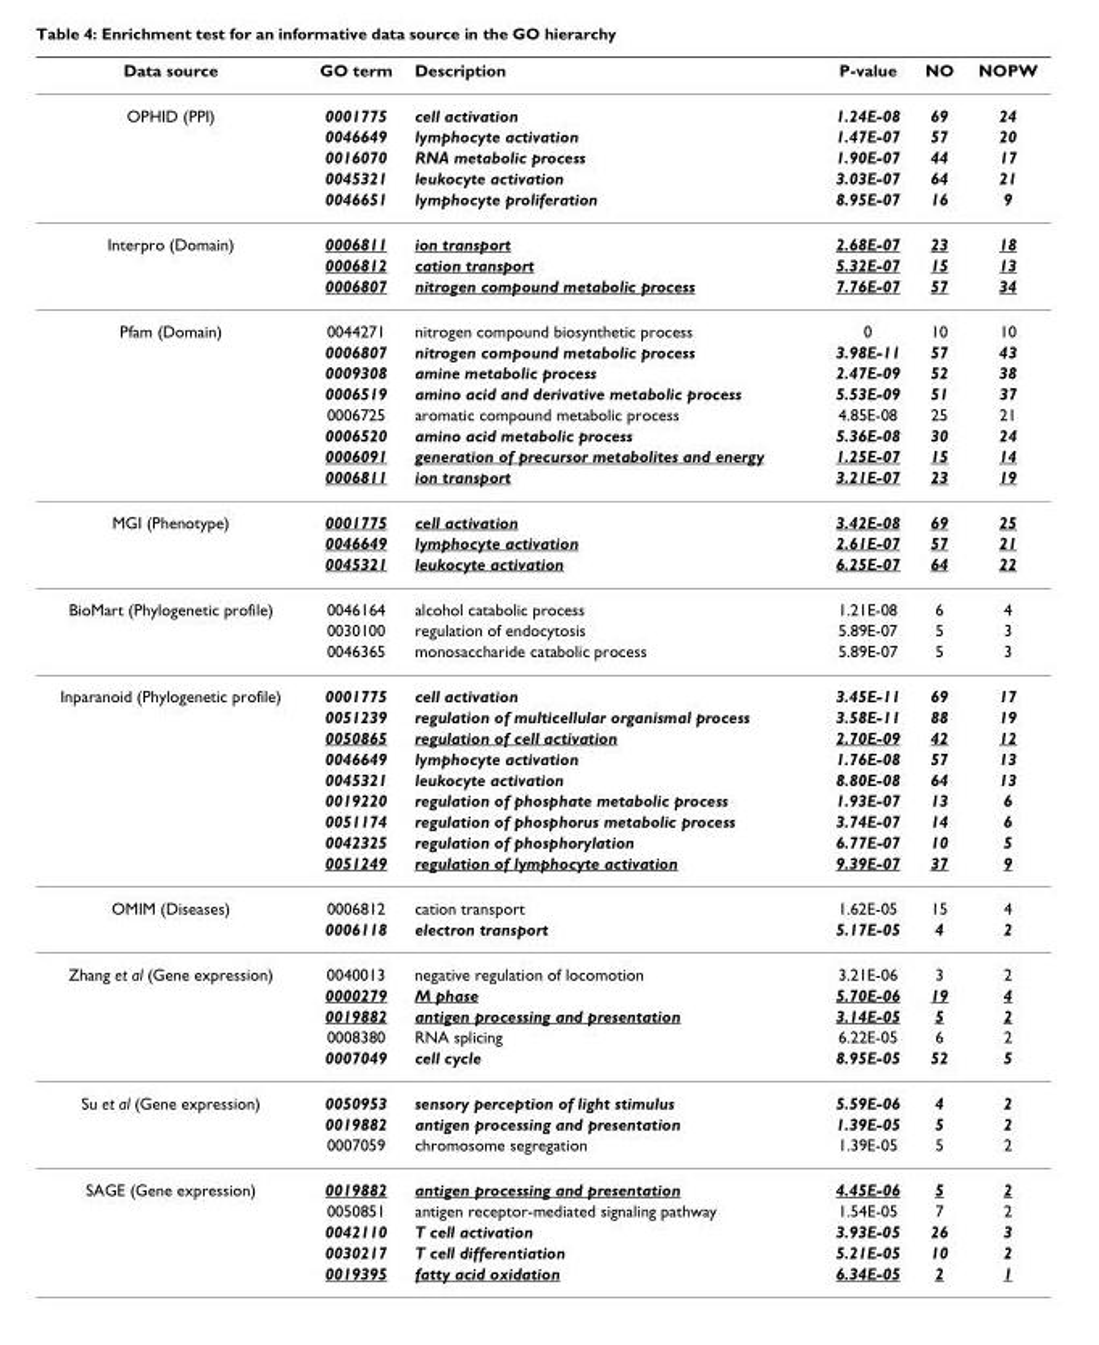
<table><thead><tr><td>Data source</td><td>GO term</td><td>Description</td><td>P-value</td><td>NO</td><td>NOPW</td></tr></thead><tbody><tr><td rowspan="5">OPHID (PPI)</td><td>0001775</td><td>cell activation</td><td>1.24E-08</td><td>69</td><td>24</td></tr><tr><td>0046649</td><td>lymphocyte activation</td><td>1.47E-07</td><td>57</td><td>20</td></tr><tr><td>0016070</td><td>RNA metabolic process</td><td>1.90E-07</td><td>44</td><td>17</td></tr><tr><td>0045321</td><td>leukocyte activation</td><td>3.03E-07</td><td>64</td><td>21</td></tr><tr><td>0046651</td><td>lymphocyte proliferation</td><td>8.95E-07</td><td>16</td><td>9</td></tr><tr><td rowspan="3">Interpro (Domain)</td><td>0006811</td><td>ion transport</td><td>2.68E-07</td><td>23</td><td>18</td></tr><tr><td>0006812</td><td>cation transport</td><td>5.32E-07</td><td>15</td><td>13</td></tr><tr><td>0006807</td><td>nitrogen compound metabolic process</td><td>7.76E-07</td><td>57</td><td>34</td></tr><tr><td rowspan="8">Pfam (Domain)</td><td>0044271</td><td>nitrogen compound biosynthetic process</td><td>0</td><td>10</td><td>10</td></tr><tr><td>0006807</td><td>nitrogen compound metabolic process</td><td>3.98E-11</td><td>57</td><td>43</td></tr><tr><td>0009308</td><td>amine metabolic process</td><td>2.47E-09</td><td>52</td><td>38</td></tr><tr><td>0006519</td><td>amino acid and derivative metabolic process</td><td>5.53E-09</td><td>51</td><td>37</td></tr><tr><td>0006725</td><td>aromatic compound metabolic process</td><td>4.85E-08</td><td>25</td><td>21</td></tr><tr><td>0006520</td><td>amino acid metabolic process</td><td>5.36E-08</td><td>30</td><td>24</td></tr><tr><td>0006091</td><td>generation of precursor metabolites and energy</td><td>1.25E-07</td><td>15</td><td>14</td></tr><tr><td>0006811</td><td>ion transport</td><td>3.21E-07</td><td>23</td><td>19</td></tr><tr><td rowspan="3">MGI (Phenotype)</td><td>0001775</td><td>cell activation</td><td>3.42E-08</td><td>69</td><td>25</td></tr><tr><td>0046649</td><td>lymphocyte activation</td><td>2.61E-07</td><td>57</td><td>21</td></tr><tr><td>0045321</td><td>leukocyte activation</td><td>6.25E-07</td><td>64</td><td>22</td></tr><tr><td rowspan="3">BioMart (Phylogenetic profile)</td><td>0046164</td><td>alcohol catabolic process</td><td>1.21E-08</td><td>6</td><td>4</td></tr><tr><td>0030100</td><td>regulation of endocytosis</td><td>5.89E-07</td><td>5</td><td>3</td></tr><tr><td>0046365</td><td>monosaccharide catabolic process</td><td>5.89E-07</td><td>5</td><td>3</td></tr><tr><td rowspan="9">Inparanoid (Phylogenetic profile)</td><td>0001775</td><td>cell activation</td><td>3.45E-11</td><td>69</td><td>17</td></tr><tr><td>0051239</td><td>regulation of multicellular organismal process</td><td>3.58E-11</td><td>88</td><td>19</td></tr><tr><td>0050865</td><td>regulation of cell activation</td><td>2.70E-09</td><td>42</td><td>12</td></tr><tr><td>0046649</td><td>lymphocyte activation</td><td>1.76E-08</td><td>57</td><td>13</td></tr><tr><td>0045321</td><td>leukocyte activation</td><td>8.80E-08</td><td>64</td><td>13</td></tr><tr><td>0019220</td><td>regulation of phosphate metabolic process</td><td>1.93E-07</td><td>13</td><td>6</td></tr><tr><td>0051174</td><td>regulation of phosphorus metabolic process</td><td>3.74E-07</td><td>14</td><td>6</td></tr><tr><td>0042325</td><td>regulation of phosphorylation</td><td>6.77E-07</td><td>10</td><td>5</td></tr><tr><td>0051249</td><td>regulation of lymphocyte activation</td><td>9.39E-07</td><td>37</td><td>9</td></tr><tr><td rowspan="2">OMIM (Diseases)</td><td>0006812</td><td>cation transport</td><td>1.62E-05</td><td>15</td><td>4</td></tr><tr><td>0006118</td><td>electron transport</td><td>5.17E-05</td><td>4</td><td>2</td></tr><tr><td rowspan="5">Zhang et al (Gene expression)</td><td>0040013</td><td>negative regulation of locomotion</td><td>3.21E-06</td><td>3</td><td>2</td></tr><tr><td>0000279</td><td>M phase</td><td>5.70E-06</td><td>19</td><td>4</td></tr><tr><td>0019882</td><td>antigen processing and presentation</td><td>3.14E-05</td><td>5</td><td>2</td></tr><tr><td>0008380</td><td>RNA splicing</td><td>6.22E-05</td><td>6</td><td>2</td></tr><tr><td>0007049</td><td>cell cycle</td><td>8.95E-05</td><td>52</td><td>5</td></tr><tr><td rowspan="3">Su et al (Gene expression)</td><td>0050953</td><td>sensory perception of light stimulus</td><td>5.59E-06</td><td>4</td><td>2</td></tr><tr><td>0019882</td><td>antigen processing and presentation</td><td>1.39E-05</td><td>5</td><td>2</td></tr><tr><td>0007059</td><td>chromosome segregation</td><td>1.39E-05</td><td>5</td><td>2</td></tr><tr><td rowspan="5">SAGE (Gene expression)</td><td>0019882</td><td>antigen processing and presentation</td><td>4.45E-06</td><td>5</td><td>2</td></tr><tr><td>0050851</td><td>antigen receptor-mediated signaling pathway</td><td>1.54E-05</td><td>7</td><td>2</td></tr><tr><td>0042110</td><td>T cell activation</td><td>3.93E-05</td><td>26</td><td>3</td></tr><tr><td>0030217</td><td>T cell differentiation</td><td>5.21E-05</td><td>10</td><td>2</td></tr><tr><td>0019395</td><td>fatty acid oxidation</td><td>6.34E-05</td><td>2</td><td>1</td></tr></tbody></table>